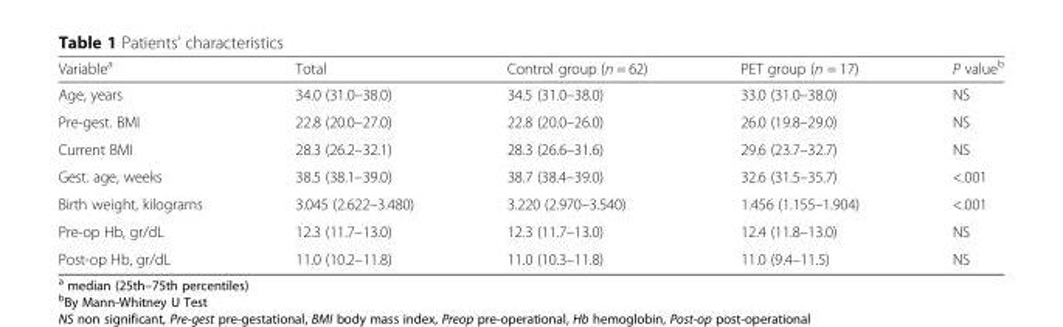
<table><thead><tr><td>Variable<sup>a</sup></td><td>Total</td><td>Control group (n = 62)</td><td>PET group (n = 17)</td><td>P value<sup>b</sup></td></tr></thead><tbody><tr><td>Age, years</td><td>34.0 (31.0–38.0)</td><td>34.5 (31.0–38.0)</td><td>33.0 (31.0–38.0)</td><td>NS</td></tr><tr><td>Pre-gest. BMI</td><td>22.8 (20.0–27.0)</td><td>22.8 (20.0–26.0)</td><td>26.0 (19.8–29.0)</td><td>NS</td></tr><tr><td>Current BMI</td><td>28.3 (26.2–32.1)</td><td>28.3 (26.6–31.6)</td><td>29.6 (23.7–32.7)</td><td>NS</td></tr><tr><td>Gest. age, weeks</td><td>38.5 (38.1–39.0)</td><td>38.7 (38.4–39.0)</td><td>32.6 (31.5–35.7)</td><td>&lt;.001</td></tr><tr><td>Birth weight, kilograms</td><td>3.045 (2.622–3.480)</td><td>3.220 (2.970–3.540)</td><td>1.456 (1.155–1.904)</td><td>&lt;.001</td></tr><tr><td>Pre-op Hb, gr/dL</td><td>12.3 (11.7–13.0)</td><td>12.3 (11.7–13.0)</td><td>12.4 (11.8–13.0)</td><td>NS</td></tr><tr><td>Post-op Hb, gr/dL</td><td>11.0 (10.2–11.8)</td><td>11.0 (10.3–11.8)</td><td>11.0 (9.4–11.5)</td><td>NS</td></tr></tbody></table>